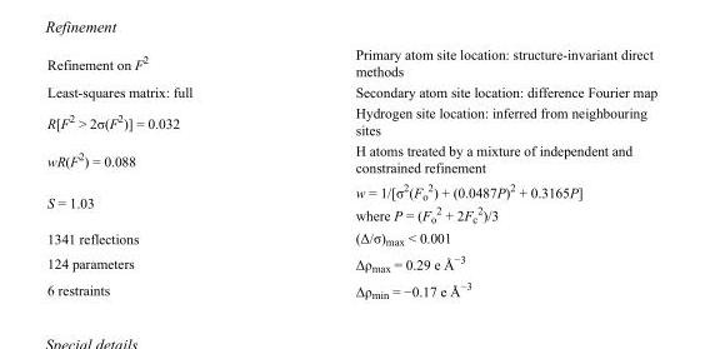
<table><tbody><tr><td>Refinement on F<sup>2</sup></td><td>Primary atom site location: structure-invariant direct methods</td></tr><tr><td>Least-squares matrix: full</td><td>Secondary atom site location: difference Fourier map</td></tr><tr><td>R[F<sup>2</sup> &gt; 2σ(F<sup>2</sup>)] = 0.032</td><td>Hydrogen site location: inferred from neighbouring sites</td></tr><tr><td>wR(F<sup>2</sup>) = 0.088</td><td>H atoms treated by a mixture of independent and constrained refinement</td></tr><tr><td>S = 1.03</td><td>w = 1/[σ<sup>2</sup>(F<sub>o</sub> <sup>2</sup>) + (0.0487P)<sup>2</sup> + 0.3165P] where P = (F<sub>o</sub> <sup>2</sup> + 2F<sub>c</sub> <sup>2</sup>)/3</td></tr><tr><td>1341 reflections</td><td>(Δ/σ)<sub>max</sub> &lt; 0.001</td></tr><tr><td>124 parameters</td><td>Δρ<sub>max</sub> = 0.29 e Å<sup>−3</sup></td></tr><tr><td>6 restraints</td><td>Δρ<sub>min</sub> = −0.17 e Å<sup>−3</sup></td></tr></tbody></table>